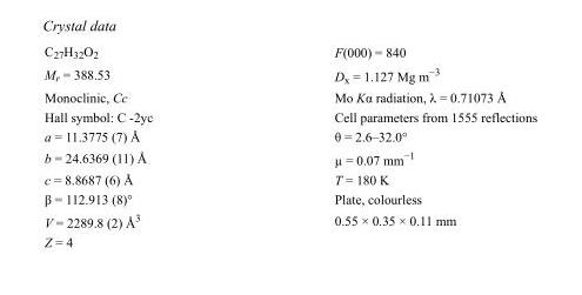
<table><tbody><tr><td>C<sub>27</sub>H<sub>32</sub>O<sub>2</sub></td><td>F(000) = 840</td></tr><tr><td>M<sub>r</sub> = 388.53</td><td>D<sub>x</sub> = 1.127 Mg m<sup>−3</sup></td></tr><tr><td>Monoclinic, Cc</td><td>Mo Kα radiation, λ = 0.71073 Å</td></tr><tr><td>Hall symbol: C -2yc</td><td>Cell parameters from 1555 reflections</td></tr><tr><td>a = 11.3775 (7) Å</td><td>θ = 2.6–32.0°</td></tr><tr><td>b = 24.6369 (11) Å</td><td>µ = 0.07 mm<sup>−1</sup></td></tr><tr><td>c = 8.8687 (6) Å</td><td>T = 180 K</td></tr><tr><td>β = 112.913 (8)°</td><td>Plate, colourless</td></tr><tr><td>V = 2289.8 (2) Å<sup>3</sup></td><td>0.55 × 0.35 × 0.11 mm</td></tr><tr><td>Z = 4</td><td></td></tr></tbody></table>